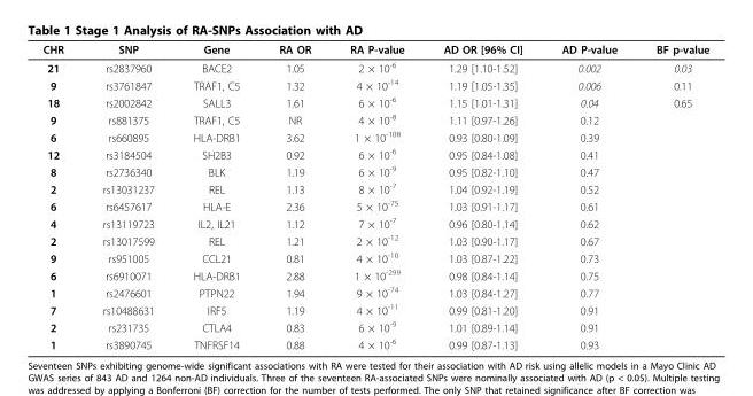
<table><thead><tr><td>CHR</td><td>SNP</td><td>Gene</td><td>RA OR</td><td>RA P-value</td><td>AD OR [96% CI]</td><td>AD P-value</td><td>BF p-value</td></tr></thead><tbody><tr><td>21</td><td>rs2837960</td><td>BACE2</td><td>1.05</td><td>2 × 10<sup>-6</sup></td><td>1.29 [1.10-1.52]</td><td>0.002</td><td>0.03</td></tr><tr><td>9</td><td>rs3761847</td><td>TRAF1, C5</td><td>1.32</td><td>4 × 10<sup>-14</sup></td><td>1.19 [1.05-1.35]</td><td>0.006</td><td>0.11</td></tr><tr><td>18</td><td>rs2002842</td><td>SALL3</td><td>1.61</td><td>6 × 10<sup>-6</sup></td><td>1.15 [1.01-1.31]</td><td>0.04</td><td>0.65</td></tr><tr><td>9</td><td>rs881375</td><td>TRAF1, C5</td><td>NR</td><td>4 × 10<sup>-8</sup></td><td>1.11 [0.97-1.26]</td><td>0.12</td><td></td></tr><tr><td>6</td><td>rs660895</td><td>HLA-DRB1</td><td>3.62</td><td>1 × 10<sup>-108</sup></td><td>0.93 [0.80-1.09]</td><td>0.39</td><td></td></tr><tr><td>12</td><td>rs3184504</td><td>SH2B3</td><td>0.92</td><td>6 × 10<sup>-6</sup></td><td>0.95 [0.84-1.08]</td><td>0.41</td><td></td></tr><tr><td>8</td><td>rs2736340</td><td>BLK</td><td>1.19</td><td>6 × 10<sup>-9</sup></td><td>0.95 [0.82-1.10]</td><td>0.47</td><td></td></tr><tr><td>2</td><td>rs13031237</td><td>REL</td><td>1.13</td><td>8 × 10<sup>-7</sup></td><td>1.04 [0.92-1.19]</td><td>0.52</td><td></td></tr><tr><td>6</td><td>rs6457617</td><td>HLA-E</td><td>2.36</td><td>5 × 10<sup>-75</sup></td><td>1.03 [0.91-1.17]</td><td>0.61</td><td></td></tr><tr><td>4</td><td>rs13119723</td><td>IL2, IL21</td><td>1.12</td><td>7 × 10<sup>-7</sup></td><td>0.96 [0.80-1.14]</td><td>0.62</td><td></td></tr><tr><td>2</td><td>rs13017599</td><td>REL</td><td>1.21</td><td>2 × 10<sup>-12</sup></td><td>1.03 [0.90-1.17]</td><td>0.67</td><td></td></tr><tr><td>9</td><td>rs951005</td><td>CCL21</td><td>0.81</td><td>4 × 10<sup>-10</sup></td><td>1.03 [0.87-1.22]</td><td>0.73</td><td></td></tr><tr><td>6</td><td>rs6910071</td><td>HLA-DRB1</td><td>2.88</td><td>1 × 10<sup>-299</sup></td><td>0.98 [0.84-1.14]</td><td>0.75</td><td></td></tr><tr><td>1</td><td>rs2476601</td><td>PTPN22</td><td>1.94</td><td>9 × 10<sup>-74</sup></td><td>1.03 [0.84-1.27]</td><td>0.77</td><td></td></tr><tr><td>7</td><td>rs10488631</td><td>IRF5</td><td>1.19</td><td>4 × 10<sup>-11</sup></td><td>0.99 [0.81-1.20]</td><td>0.91</td><td></td></tr><tr><td>2</td><td>rs231735</td><td>CTLA4</td><td>0.83</td><td>6 × 10<sup>-9</sup></td><td>1.01 [0.89-1.14]</td><td>0.91</td><td></td></tr><tr><td>1</td><td>rs3890745</td><td>TNFRSF14</td><td>0.88</td><td>4 × 10<sup>-6</sup></td><td>0.99 [0.87-1.13]</td><td>0.93</td><td></td></tr></tbody></table>